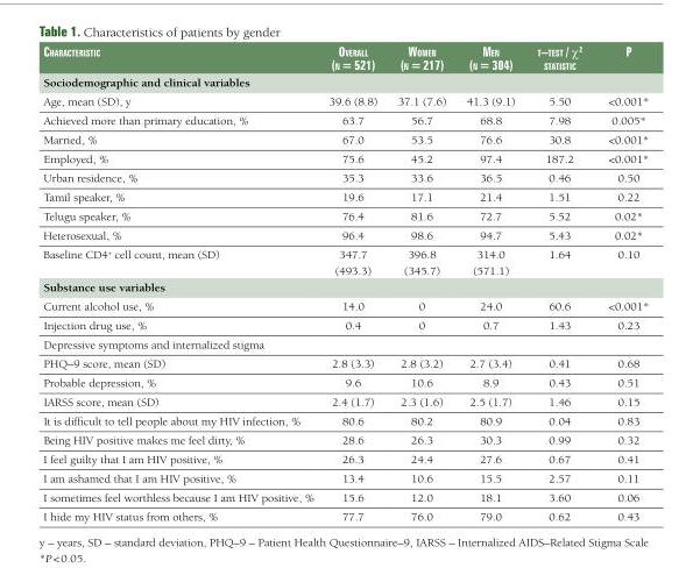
<table><thead><tr><td>CharaCteristiC</td><td>Overall (n = 521)</td><td>WOmen (n = 217)</td><td>men (n = 304)</td><td>t–test / χ<sup>2</sup> statistiC</td><td>P</td></tr></thead><tbody><tr><td colspan="6">Sociodemographic and clinical variables</td></tr><tr><td>Age, mean (SD), y</td><td>39.6 (8.8)</td><td>37.1 (7.6)</td><td>41.3 (9.1)</td><td>5.50</td><td>&lt;0.001*</td></tr><tr><td>Achieved more than primary education, %</td><td>63.7</td><td>56.7</td><td>68.8</td><td>7.98</td><td>0.005*</td></tr><tr><td>Married, %</td><td>67.0</td><td>53.5</td><td>76.6</td><td>30.8</td><td>&lt;0.001*</td></tr><tr><td>Employed, %</td><td>75.6</td><td>45.2</td><td>97.4</td><td>187.2</td><td>&lt;0.001*</td></tr><tr><td>Urban residence, %</td><td>35.3</td><td>33.6</td><td>36.5</td><td>0.46</td><td>0.50</td></tr><tr><td>Tamil speaker, %</td><td>19.6</td><td>17.1</td><td>21.4</td><td>1.51</td><td>0.22</td></tr><tr><td>Telugu speaker, %</td><td>76.4</td><td>81.6</td><td>72.7</td><td>5.52</td><td>0.02*</td></tr><tr><td>Heterosexual, %</td><td>96.4</td><td>98.6</td><td>94.7</td><td>5.43</td><td>0.02*</td></tr><tr><td>Baseline CD4<sup>+</sup> cell count, mean (SD)</td><td>347.7 (493.3)</td><td>396.8 (345.7)</td><td>314.0 (571.1)</td><td>1.64</td><td>0.10</td></tr><tr><td colspan="6">Substance use variables</td></tr><tr><td>Current alcohol use, %</td><td>14.0</td><td>0</td><td>24.0</td><td>60.6</td><td>&lt;0.001*</td></tr><tr><td>Injection drug use, %</td><td>0.4</td><td>0</td><td>0.7</td><td>1.43</td><td>0.23</td></tr><tr><td colspan="6">Depressive symptoms and internalized stigma</td></tr><tr><td>PHQ–9 score, mean (SD)</td><td>2.8 (3.3)</td><td>2.8 (3.2)</td><td>2.7 (3.4)</td><td>0.41</td><td>0.68</td></tr><tr><td>Probable depression, %</td><td>9.6</td><td>10.6</td><td>8.9</td><td>0.43</td><td>0.51</td></tr><tr><td>IARSS score, mean (SD)</td><td>2.4 (1.7)</td><td>2.3 (1.6)</td><td>2.5 (1.7)</td><td>1.46</td><td>0.15</td></tr><tr><td>It is difficult to tell people about my HIV infection, %</td><td>80.6</td><td>80.2</td><td>80.9</td><td>0.04</td><td>0.83</td></tr><tr><td>Being HIV positive makes me feel dirty, %</td><td>28.6</td><td>26.3</td><td>30.3</td><td>0.99</td><td>0.32</td></tr><tr><td>I feel guilty that I am HIV positive, %</td><td>26.3</td><td>24.4</td><td>27.6</td><td>0.67</td><td>0.41</td></tr><tr><td>I am ashamed that I am HIV positive, %</td><td>13.4</td><td>10.6</td><td>15.5</td><td>2.57</td><td>0.11</td></tr><tr><td>I sometimes feel worthless because I am HIV positive, %</td><td>15.6</td><td>12.0</td><td>18.1</td><td>3.60</td><td>0.06</td></tr><tr><td>I hide my HIV status from others, %</td><td>77.7</td><td>76.0</td><td>79.0</td><td>0.62</td><td>0.43</td></tr></tbody></table>